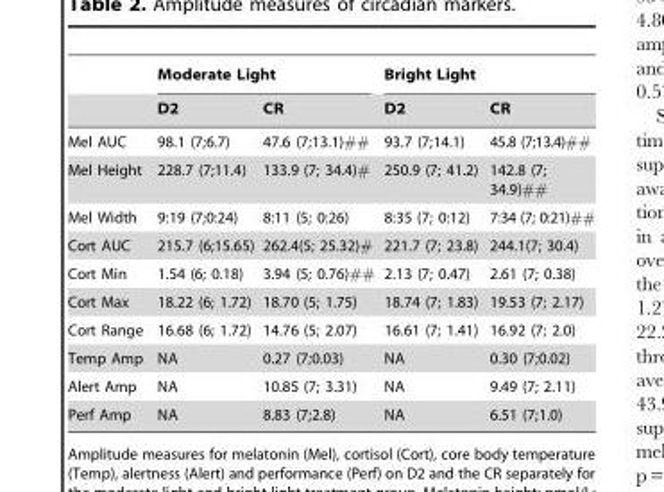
<table><thead><tr><td rowspan="2"></td><td colspan="2">Moderate Light</td><td colspan="2">Bright Light</td></tr><tr><td>D2</td><td>CR</td><td>D2</td><td>CR</td></tr></thead><tbody><tr><td>Mel AUC</td><td>98.1 (7;6.7)</td><td>47.6 (7;13.1)##</td><td>93.7 (7;14.1)</td><td>45.8 (7;13.4)##</td></tr><tr><td>Mel Height</td><td>228.7 (7;11.4)</td><td>133.9 (7; 34.4)#</td><td>250.9 (7; 41.2)</td><td>142.8 (7; 34.9)##</td></tr><tr><td>Mel Width</td><td>9:19 (7;0:24)</td><td>8:11 (5; 0:26)</td><td>8:35 (7; 0:12)</td><td>7:34 (7; 0:21)##</td></tr><tr><td>Cort AUC</td><td>215.7 (6;15.65)</td><td>262.4(5; 25.32)#</td><td>221.7 (7; 23.8)</td><td>244.1(7; 30.4)</td></tr><tr><td>Cort Min</td><td>1.54 (6; 0.18)</td><td>3.94 (5; 0.76)##</td><td>2.13 (7; 0.47)</td><td>2.61 (7; 0.38)</td></tr><tr><td>Cort Max</td><td>18.22 (6; 1.72)</td><td>18.70 (5; 1.75)</td><td>18.74 (7; 1.83)</td><td>19.53 (7; 2.17)</td></tr><tr><td>Cort Range</td><td>16.68 (6; 1.72)</td><td>14.76 (5; 2.07)</td><td>16.61 (7; 1.41)</td><td>16.92 (7; 2.0)</td></tr><tr><td>Temp Amp</td><td>NA</td><td>0.27 (7;0.03)</td><td>NA</td><td>0.30 (7;0.02)</td></tr><tr><td>Alert Amp</td><td>NA</td><td>10.85 (7; 3.31)</td><td>NA</td><td>9.49 (7; 2.11)</td></tr><tr><td>Perf Amp</td><td>NA</td><td>8.83 (7;2.8)</td><td>NA</td><td>6.51 (7;1.0)</td></tr></tbody></table>